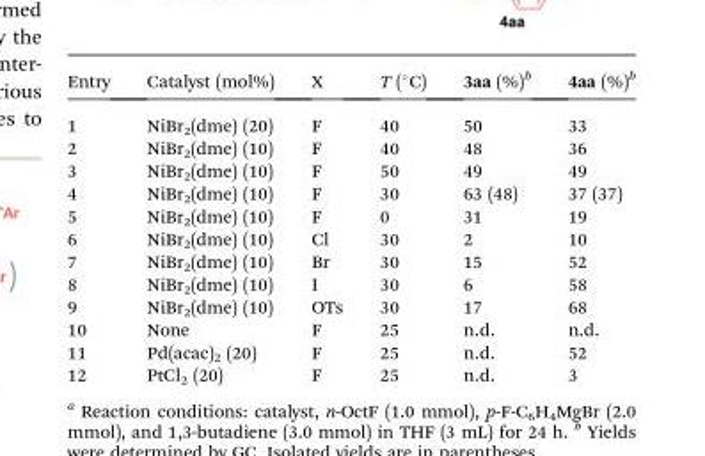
<table><thead><tr><td>Entry</td><td>Catalyst (mol%)</td><td>X</td><td>T (°C)</td><td>3aa (%)<sup>b</sup></td><td>4aa (%)<sup>b</sup></td></tr></thead><tbody><tr><td>1</td><td>NiBr<sub>2</sub>(dme) (20)</td><td>F</td><td>40</td><td>50</td><td>33</td></tr><tr><td>2</td><td>NiBr<sub>2</sub>(dme) (10)</td><td>F</td><td>40</td><td>48</td><td>36</td></tr><tr><td>3</td><td>NiBr<sub>2</sub>(dme) (10)</td><td>F</td><td>50</td><td>49</td><td>49</td></tr><tr><td>4</td><td>NiBr<sub>2</sub>(dme) (10)</td><td>F</td><td>30</td><td>63 (48)</td><td>37 (37)</td></tr><tr><td>5</td><td>NiBr<sub>2</sub>(dme) (10)</td><td>F</td><td>0</td><td>31</td><td>19</td></tr><tr><td>6</td><td>NiBr<sub>2</sub>(dme) (10)</td><td>Cl</td><td>30</td><td>2</td><td>10</td></tr><tr><td>7</td><td>NiBr<sub>2</sub>(dme) (10)</td><td>Br</td><td>30</td><td>15</td><td>52</td></tr><tr><td>8</td><td>NiBr<sub>2</sub>(dme) (10)</td><td>I</td><td>30</td><td>6</td><td>58</td></tr><tr><td>9</td><td>NiBr<sub>2</sub>(dme) (10)</td><td>OTs</td><td>30</td><td>17</td><td>68</td></tr><tr><td>10</td><td>None</td><td>F</td><td>25</td><td>n.d.</td><td>n.d.</td></tr><tr><td>11</td><td>Pd(acac)<sub>2</sub> (20)</td><td>F</td><td>25</td><td>n.d.</td><td>52</td></tr><tr><td>12</td><td>PtCl<sub>2</sub> (20)</td><td>F</td><td>25</td><td>n.d.</td><td>3</td></tr></tbody></table>